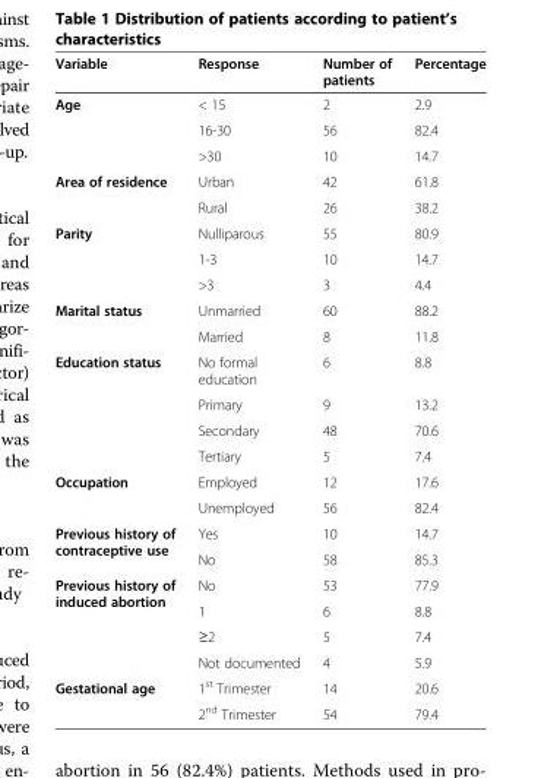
<table><thead><tr><td>Variable</td><td>Response</td><td>Number of patients</td><td>Percentage</td></tr></thead><tbody><tr><td rowspan="3">Age</td><td>&lt; 15</td><td>2</td><td>2.9</td></tr><tr><td>16-30</td><td>56</td><td>82.4</td></tr><tr><td>&gt;30</td><td>10</td><td>14.7</td></tr><tr><td rowspan="2">Area of residence</td><td>Urban</td><td>42</td><td>61.8</td></tr><tr><td>Rural</td><td>26</td><td>38.2</td></tr><tr><td rowspan="3">Parity</td><td>Nulliparous</td><td>55</td><td>80.9</td></tr><tr><td>1-3</td><td>10</td><td>14.7</td></tr><tr><td>&gt;3</td><td>3</td><td>4.4</td></tr><tr><td rowspan="2">Marital status</td><td>Unmarried</td><td>60</td><td>88.2</td></tr><tr><td>Married</td><td>8</td><td>11.8</td></tr><tr><td rowspan="4">Education status</td><td>No formal education</td><td>6</td><td>8.8</td></tr><tr><td>Primary</td><td>9</td><td>13.2</td></tr><tr><td>Secondary</td><td>48</td><td>70.6</td></tr><tr><td>Tertiary</td><td>5</td><td>7.4</td></tr><tr><td rowspan="2">Occupation</td><td>Employed</td><td>12</td><td>17.6</td></tr><tr><td>Unemployed</td><td>56</td><td>82.4</td></tr><tr><td rowspan="2">Previous history of contraceptive use</td><td>Yes</td><td>10</td><td>14.7</td></tr><tr><td>No</td><td>58</td><td>85.3</td></tr><tr><td rowspan="4">Previous history of induced abortion</td><td>No</td><td>53</td><td>77.9</td></tr><tr><td>1</td><td>6</td><td>8.8</td></tr><tr><td>≥2</td><td>5</td><td>7.4</td></tr><tr><td>Not documented</td><td>4</td><td>5.9</td></tr><tr><td rowspan="2">Gestational age</td><td>1<sup>st</sup> Trimester</td><td>14</td><td>20.6</td></tr><tr><td>2<sup>nd</sup> Trimester</td><td>54</td><td>79.4</td></tr></tbody></table>